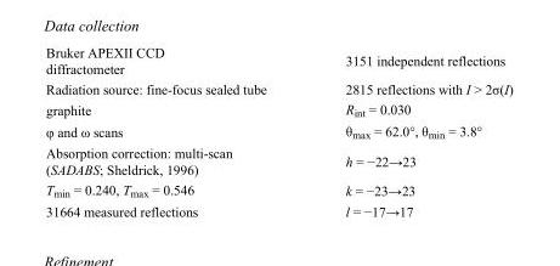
<table><tbody><tr><td>Bruker APEXII CCD diffractometer</td><td>3151 independent reflections</td></tr><tr><td>Radiation source: fine-focus sealed tube</td><td>2815 reflections with I &gt; 2σ(I)</td></tr><tr><td>graphite</td><td>R<sub>int</sub> = 0.030</td></tr><tr><td>φ and ω scans</td><td>θ<sub>max</sub> = 62.0°, θ<sub>min</sub> = 3.8°</td></tr><tr><td>Absorption correction: multi-scan (SADABS; Sheldrick, 1996)</td><td>h = −22→23</td></tr><tr><td>T<sub>min</sub> = 0.240, T<sub>max</sub> = 0.546</td><td>k = −23→23</td></tr><tr><td>31664 measured reflections</td><td>l = −17→17</td></tr></tbody></table>